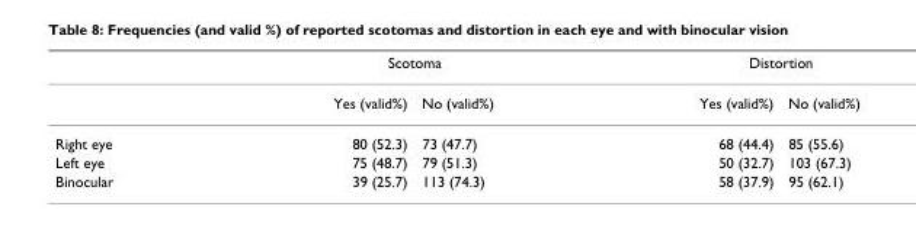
<table><thead><tr><td rowspan="2"></td><td colspan="2">Scotoma</td><td colspan="2">Distortion</td></tr><tr><td>Yes (valid%)</td><td>No (valid%)</td><td>Yes (valid%)</td><td>No (valid%)</td></tr></thead><tbody><tr><td>Right eye</td><td>80 (52.3)</td><td>73 (47.7)</td><td>68 (44.4)</td><td>85 (55.6)</td></tr><tr><td>Left eye</td><td>75 (48.7)</td><td>79 (51.3)</td><td>50 (32.7)</td><td>103 (67.3)</td></tr><tr><td>Binocular</td><td>39 (25.7)</td><td>113 (74.3)</td><td>58 (37.9)</td><td>95 (62.1)</td></tr></tbody></table>